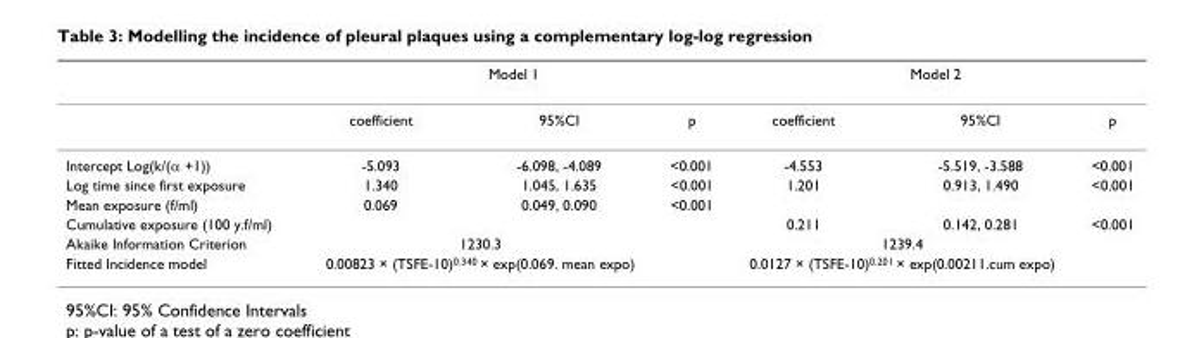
<table><thead><tr><td rowspan="2"></td><td colspan="3">Model 1</td><td colspan="3">Model 2</td></tr><tr><td>coefficient</td><td>95%CI</td><td>p</td><td>coefficient</td><td>95%CI</td><td>p</td></tr></thead><tbody><tr><td>Intercept Log(k/(α +1))</td><td>-5.093</td><td>-6.098, -4.089</td><td>&lt;0.001</td><td>-4.553</td><td>-5.519, -3.588</td><td>&lt;0.001</td></tr><tr><td>Log time since first exposure</td><td>1.340</td><td>1.045, 1.635</td><td>&lt;0.001</td><td>1.201</td><td>0.913, 1.490</td><td>&lt;0.001</td></tr><tr><td>Mean exposure (f/ml)</td><td>0.069</td><td>0.049, 0.090</td><td>&lt;0.001</td><td></td><td></td><td></td></tr><tr><td>Cumulative exposure (100 y.f/ml)</td><td></td><td></td><td></td><td>0.211</td><td>0.142, 0.281</td><td>&lt;0.001</td></tr><tr><td>Akaike Information Criterion</td><td colspan="2">1230.3</td><td></td><td colspan="2">1239.4</td><td></td></tr><tr><td>Fitted Incidence model</td><td colspan="2">0.00823 × (TSFE-10)<sup>0.340</sup> × exp(0.069. mean expo)</td><td></td><td colspan="2">0.0127 × (TSFE-10)<sup>0.201</sup> × exp(0.00211.cum expo)</td><td></td></tr></tbody></table>